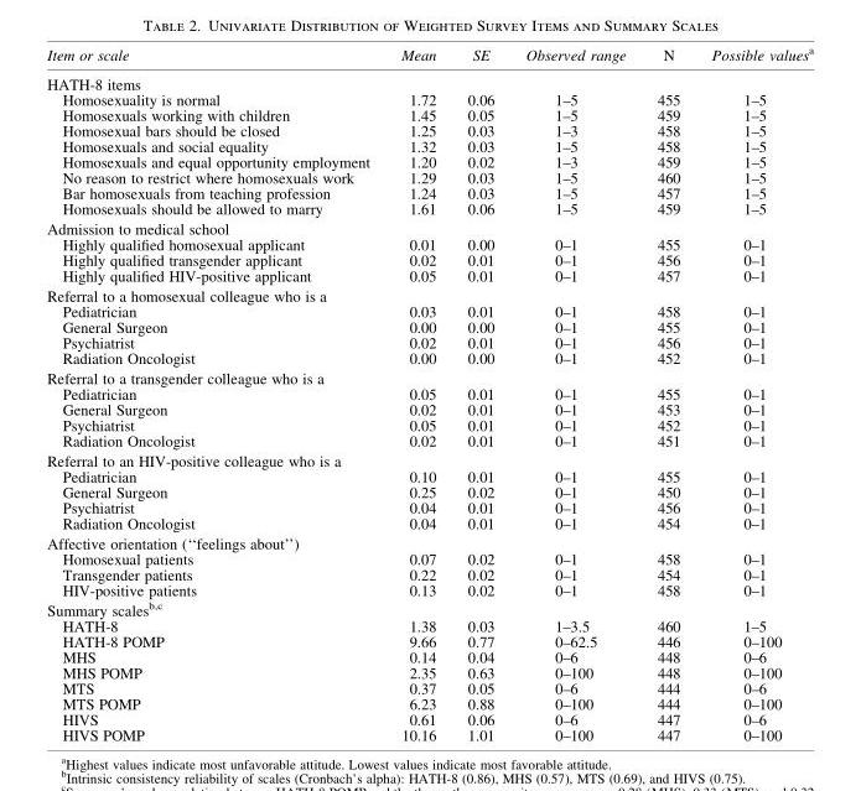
<table><thead><tr><td>Item or scale</td><td>Mean</td><td>SE</td><td>Observed range</td><td>N</td><td>Possible values<sup>a</sup></td></tr></thead><tbody><tr><td colspan="6">HATH-8 items</td></tr><tr><td>Homosexuality is normal</td><td>1.72</td><td>0.06</td><td>1–5</td><td>455</td><td>1–5</td></tr><tr><td>Homosexuals working with children</td><td>1.45</td><td>0.05</td><td>1–5</td><td>459</td><td>1–5</td></tr><tr><td>Homosexual bars should be closed</td><td>1.25</td><td>0.03</td><td>1–3</td><td>458</td><td>1–5</td></tr><tr><td>Homosexuals and social equality</td><td>1.32</td><td>0.03</td><td>1–5</td><td>458</td><td>1–5</td></tr><tr><td>Homosexuals and equal opportunity employment</td><td>1.20</td><td>0.02</td><td>1–3</td><td>459</td><td>1–5</td></tr><tr><td>No reason to restrict where homosexuals work</td><td>1.29</td><td>0.03</td><td>1–5</td><td>460</td><td>1–5</td></tr><tr><td>Bar homosexuals from teaching profession</td><td>1.24</td><td>0.03</td><td>1–5</td><td>457</td><td>1–5</td></tr><tr><td>Homosexuals should be allowed to marry</td><td>1.61</td><td>0.06</td><td>1–5</td><td>459</td><td>1–5</td></tr><tr><td colspan="6">Admission to medical school</td></tr><tr><td>Highly qualified homosexual applicant</td><td>0.01</td><td>0.00</td><td>0–1</td><td>455</td><td>0–1</td></tr><tr><td>Highly qualified transgender applicant</td><td>0.02</td><td>0.01</td><td>0–1</td><td>456</td><td>0–1</td></tr><tr><td>Highly qualified HIV-positive applicant</td><td>0.05</td><td>0.01</td><td>0–1</td><td>457</td><td>0–1</td></tr><tr><td colspan="6">Referral to a homosexual colleague who is a</td></tr><tr><td>Pediatrician</td><td>0.03</td><td>0.01</td><td>0–1</td><td>458</td><td>0–1</td></tr><tr><td>General Surgeon</td><td>0.00</td><td>0.00</td><td>0–1</td><td>455</td><td>0–1</td></tr><tr><td>Psychiatrist</td><td>0.02</td><td>0.01</td><td>0–1</td><td>456</td><td>0–1</td></tr><tr><td>Radiation Oncologist</td><td>0.00</td><td>0.00</td><td>0–1</td><td>452</td><td>0–1</td></tr><tr><td colspan="6">Referral to a transgender colleague who is a</td></tr><tr><td>Pediatrician</td><td>0.05</td><td>0.01</td><td>0–1</td><td>455</td><td>0–1</td></tr><tr><td>General Surgeon</td><td>0.02</td><td>0.01</td><td>0–1</td><td>453</td><td>0–1</td></tr><tr><td>Psychiatrist</td><td>0.05</td><td>0.01</td><td>0–1</td><td>452</td><td>0–1</td></tr><tr><td>Radiation Oncologist</td><td>0.02</td><td>0.01</td><td>0–1</td><td>451</td><td>0–1</td></tr><tr><td colspan="6">Referral to an HIV-positive colleague who is a</td></tr><tr><td>Pediatrician</td><td>0.10</td><td>0.01</td><td>0–1</td><td>455</td><td>0–1</td></tr><tr><td>General Surgeon</td><td>0.25</td><td>0.02</td><td>0–1</td><td>450</td><td>0–1</td></tr><tr><td>Psychiatrist</td><td>0.04</td><td>0.01</td><td>0–1</td><td>456</td><td>0–1</td></tr><tr><td>Radiation Oncologist</td><td>0.04</td><td>0.01</td><td>0–1</td><td>454</td><td>0–1</td></tr><tr><td colspan="6">Affective orientation (‘‘feelings about’’)</td></tr><tr><td>Homosexual patients</td><td>0.07</td><td>0.02</td><td>0–1</td><td>458</td><td>0–1</td></tr><tr><td>Transgender patients</td><td>0.22</td><td>0.02</td><td>0–1</td><td>454</td><td>0–1</td></tr><tr><td>HIV-positive patients</td><td>0.13</td><td>0.02</td><td>0–1</td><td>458</td><td>0–1</td></tr><tr><td colspan="6">Summary scales<sup>b,c</sup></td></tr><tr><td>HATH-8</td><td>1.38</td><td>0.03</td><td>1–3.5</td><td>460</td><td>1–5</td></tr><tr><td>HATH-8 POMP</td><td>9.66</td><td>0.77</td><td>0–62.5</td><td>446</td><td>0–100</td></tr><tr><td>MHS</td><td>0.14</td><td>0.04</td><td>0–6</td><td>448</td><td>0–6</td></tr><tr><td>MHS POMP</td><td>2.35</td><td>0.63</td><td>0–100</td><td>448</td><td>0–100</td></tr><tr><td>MTS</td><td>0.37</td><td>0.05</td><td>0–6</td><td>444</td><td>0–6</td></tr><tr><td>MTS POMP</td><td>6.23</td><td>0.88</td><td>0–100</td><td>444</td><td>0–100</td></tr><tr><td>HIVS</td><td>0.61</td><td>0.06</td><td>0–6</td><td>447</td><td>0–6</td></tr><tr><td>HIVS POMP</td><td>10.16</td><td>1.01</td><td>0–100</td><td>447</td><td>0–100</td></tr></tbody></table>